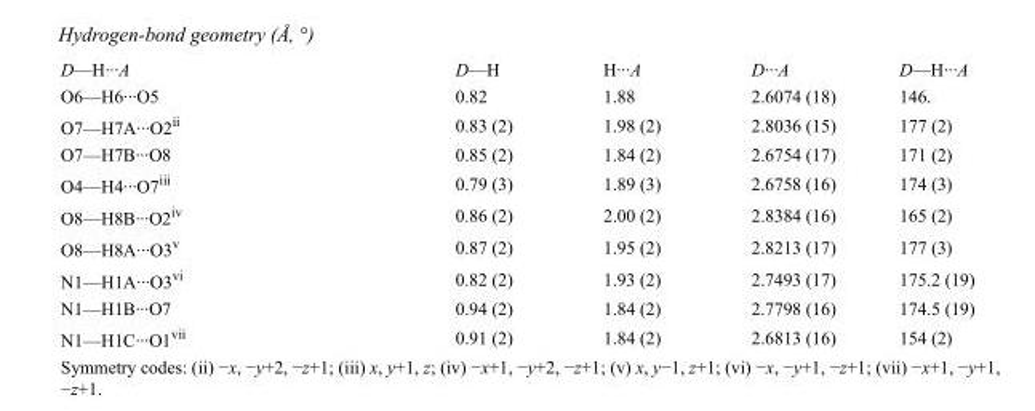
<table><tbody><tr><td>D—H···A</td><td>D—H</td><td>H···A</td><td>D···A</td><td>D—H···A</td></tr><tr><td>O6—H6···O5</td><td>0.82</td><td>1.88</td><td>2.6074 (18)</td><td>146.</td></tr><tr><td>O7—H7A···O2<sup>ii</sup></td><td>0.83 (2)</td><td>1.98 (2)</td><td>2.8036 (15)</td><td>177 (2)</td></tr><tr><td>O7—H7B···O8</td><td>0.85 (2)</td><td>1.84 (2)</td><td>2.6754 (17)</td><td>171 (2)</td></tr><tr><td>O4—H4···O7<sup>iii</sup></td><td>0.79 (3)</td><td>1.89 (3)</td><td>2.6758 (16)</td><td>174 (3)</td></tr><tr><td>O8—H8B···O2<sup>iv</sup></td><td>0.86 (2)</td><td>2.00 (2)</td><td>2.8384 (16)</td><td>165 (2)</td></tr><tr><td>O8—H8A···O3<sup>v</sup></td><td>0.87 (2)</td><td>1.95 (2)</td><td>2.8213 (17)</td><td>177 (3)</td></tr><tr><td>N1—H1A···O3<sup>vi</sup></td><td>0.82 (2)</td><td>1.93 (2)</td><td>2.7493 (17)</td><td>175.2 (19)</td></tr><tr><td>N1—H1B···O7</td><td>0.94 (2)</td><td>1.84 (2)</td><td>2.7798 (16)</td><td>174.5 (19)</td></tr><tr><td>N1—H1C···O1<sup>vii</sup></td><td>0.91 (2)</td><td>1.84 (2)</td><td>2.6813 (16)</td><td>154 (2)</td></tr></tbody></table>